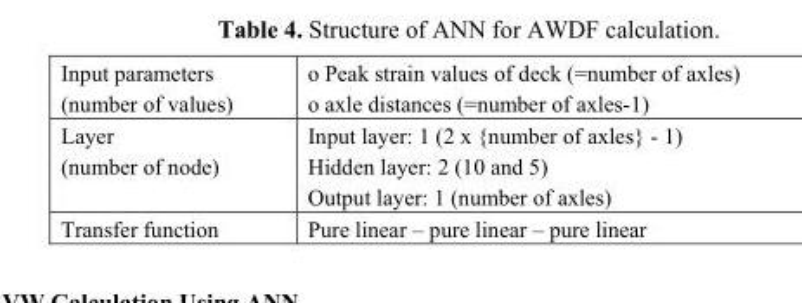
<table><tbody><tr><td>Input parameters (number of values)</td><td>o Peak strain values of deck (=number of axles) o axle distances (=number of axles-1)</td></tr><tr><td>Layer (number of node)</td><td>Input layer: 1 (2 x {number of axles} - 1) Hidden layer: 2 (10 and 5) Output layer: 1 (number of axles)</td></tr><tr><td>Transfer function</td><td>Pure linear – pure linear – pure linear</td></tr></tbody></table>